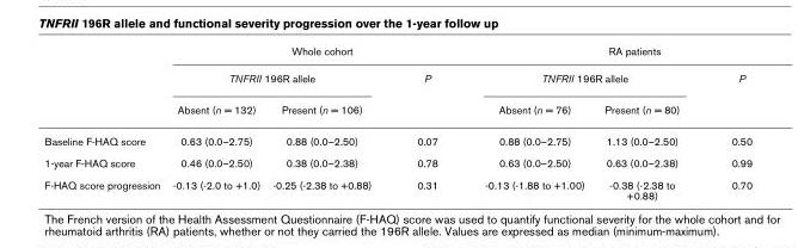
<table><thead><tr><td rowspan="3"></td><td colspan="3">Whole cohort</td><td colspan="3">RA patients</td></tr><tr><td colspan="2">TNFRII 196R allele</td><td rowspan="2">P</td><td colspan="2">TNFRII 196R allele</td><td rowspan="2">P</td></tr><tr><td>Absent (n = 132)</td><td>Present (n = 106)</td><td>Absent (n = 76)</td><td>Present (n = 80)</td></tr></thead><tbody><tr><td>Baseline F-HAQ score</td><td>0.63 (0.0–2.75)</td><td>0.88 (0.0–2.50)</td><td>0.07</td><td>0.88 (0.0–2.75)</td><td>1.13 (0.0–2.50)</td><td>0.50</td></tr><tr><td>1-year F-HAQ score</td><td>0.46 (0.0–2.50)</td><td>0.38 (0.0–2.38)</td><td>0.78</td><td>0.63 (0.0–2.50)</td><td>0.63 (0.0–2.38)</td><td>0.99</td></tr><tr><td>F-HAQ score progression</td><td>-0.13 (-2.0 to +1.0)</td><td>-0.25 (-2.38 to +0.88)</td><td>0.31</td><td>-0.13 (-1.88 to +1.00)</td><td>-0.38 (-2.38 to +0.88)</td><td>0.70</td></tr></tbody></table>